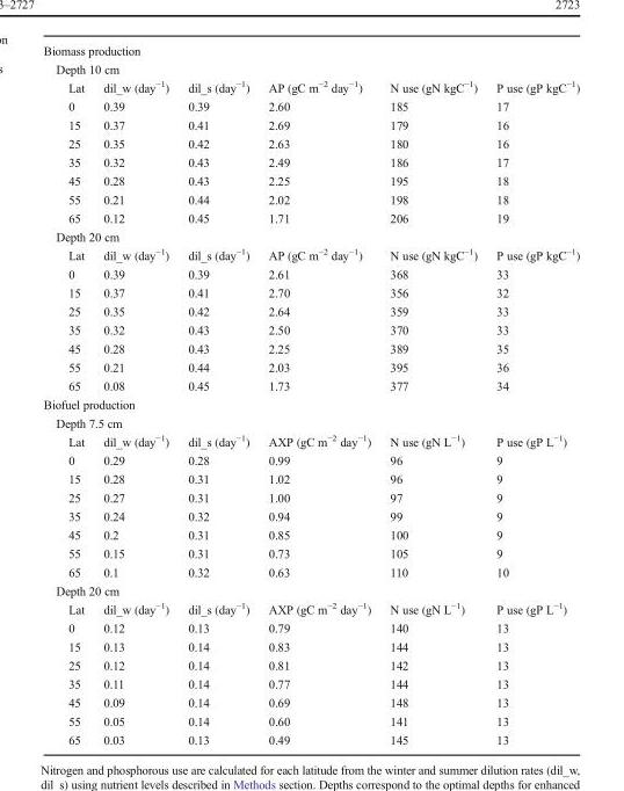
<table><tbody><tr><td colspan="6">Biomass production</td></tr><tr><td colspan="6">Depth 10 cm</td></tr><tr><td>Lat</td><td>dil_w (day<sup>−1</sup>)</td><td>dil_s (day<sup>−1</sup>)</td><td>AP (gC m<sup>−2</sup> day<sup>−1</sup>)</td><td>N use (gN kgC<sup>−1</sup>)</td><td>P use (gP kgC<sup>−1</sup>)</td></tr><tr><td>0</td><td>0.39</td><td>0.39</td><td>2.60</td><td>185</td><td>17</td></tr><tr><td>15</td><td>0.37</td><td>0.41</td><td>2.69</td><td>179</td><td>16</td></tr><tr><td>25</td><td>0.35</td><td>0.42</td><td>2.63</td><td>180</td><td>16</td></tr><tr><td>35</td><td>0.32</td><td>0.43</td><td>2.49</td><td>186</td><td>17</td></tr><tr><td>45</td><td>0.28</td><td>0.43</td><td>2.25</td><td>195</td><td>18</td></tr><tr><td>55</td><td>0.21</td><td>0.44</td><td>2.02</td><td>198</td><td>18</td></tr><tr><td>65</td><td>0.12</td><td>0.45</td><td>1.71</td><td>206</td><td>19</td></tr><tr><td colspan="6">Depth 20 cm</td></tr><tr><td>Lat</td><td>dil_w (day<sup>−1</sup>)</td><td>dil_s (day<sup>−1</sup>)</td><td>AP (gC m<sup>−2</sup> day<sup>−1</sup>)</td><td>N use (gN kgC<sup>−1</sup>)</td><td>P use (gP kgC<sup>−1</sup>)</td></tr><tr><td>0</td><td>0.39</td><td>0.39</td><td>2.61</td><td>368</td><td>33</td></tr><tr><td>15</td><td>0.37</td><td>0.41</td><td>2.70</td><td>356</td><td>32</td></tr><tr><td>25</td><td>0.35</td><td>0.42</td><td>2.64</td><td>359</td><td>33</td></tr><tr><td>35</td><td>0.32</td><td>0.43</td><td>2.50</td><td>370</td><td>33</td></tr><tr><td>45</td><td>0.28</td><td>0.43</td><td>2.25</td><td>389</td><td>35</td></tr><tr><td>55</td><td>0.21</td><td>0.44</td><td>2.03</td><td>395</td><td>36</td></tr><tr><td>65</td><td>0.08</td><td>0.45</td><td>1.73</td><td>377</td><td>34</td></tr><tr><td colspan="6">Biofuel production</td></tr><tr><td colspan="6">Depth 7.5 cm</td></tr><tr><td>Lat</td><td>dil_w (day<sup>−1</sup>)</td><td>dil_s (day<sup>−1</sup>)</td><td>AXP (gC m<sup>−2</sup> day<sup>−1</sup>)</td><td>N use (gN L<sup>−1</sup>)</td><td>P use (gP L<sup>−1</sup>)</td></tr><tr><td>0</td><td>0.29</td><td>0.28</td><td>0.99</td><td>96</td><td>9</td></tr><tr><td>15</td><td>0.28</td><td>0.31</td><td>1.02</td><td>96</td><td>9</td></tr><tr><td>25</td><td>0.27</td><td>0.31</td><td>1.00</td><td>97</td><td>9</td></tr><tr><td>35</td><td>0.24</td><td>0.32</td><td>0.94</td><td>99</td><td>9</td></tr><tr><td>45</td><td>0.2</td><td>0.31</td><td>0.85</td><td>100</td><td>9</td></tr><tr><td>55</td><td>0.15</td><td>0.31</td><td>0.73</td><td>105</td><td>9</td></tr><tr><td>65</td><td>0.1</td><td>0.32</td><td>0.63</td><td>110</td><td>10</td></tr><tr><td colspan="6">Depth 20 cm</td></tr><tr><td>Lat</td><td>dil_w (day<sup>−1</sup>)</td><td>dil_s (day<sup>−1</sup>)</td><td>AXP (gC m<sup>−2</sup> day<sup>−1</sup>)</td><td>N use (gN L<sup>−1</sup>)</td><td>P use (gP L<sup>−1</sup>)</td></tr><tr><td>0</td><td>0.12</td><td>0.13</td><td>0.79</td><td>140</td><td>13</td></tr><tr><td>15</td><td>0.13</td><td>0.14</td><td>0.83</td><td>144</td><td>13</td></tr><tr><td>25</td><td>0.12</td><td>0.14</td><td>0.81</td><td>142</td><td>13</td></tr><tr><td>35</td><td>0.11</td><td>0.14</td><td>0.77</td><td>144</td><td>13</td></tr><tr><td>45</td><td>0.09</td><td>0.14</td><td>0.69</td><td>148</td><td>13</td></tr><tr><td>55</td><td>0.05</td><td>0.14</td><td>0.60</td><td>141</td><td>13</td></tr><tr><td>65</td><td>0.03</td><td>0.13</td><td>0.49</td><td>145</td><td>13</td></tr></tbody></table>